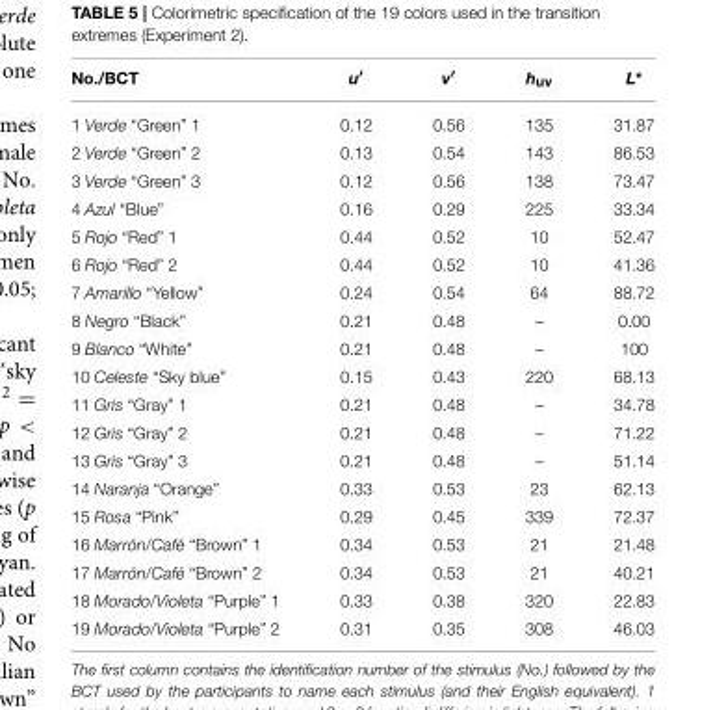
<table><thead><tr><td>No./BCT</td><td>u′</td><td>v′</td><td>h<sub>uv</sub></td><td>L*</td></tr></thead><tbody><tr><td>1 Verde “Green” 1</td><td>0.12</td><td>0.56</td><td>135</td><td>31.87</td></tr><tr><td>2 Verde “Green” 2</td><td>0.13</td><td>0.54</td><td>143</td><td>86.53</td></tr><tr><td>3 Verde “Green” 3</td><td>0.12</td><td>0.56</td><td>138</td><td>73.47</td></tr><tr><td>4 Azul “Blue”</td><td>0.16</td><td>0.29</td><td>225</td><td>33.34</td></tr><tr><td>5 Rojo “Red” 1</td><td>0.44</td><td>0.52</td><td>10</td><td>52.47</td></tr><tr><td>6 Rojo “Red” 2</td><td>0.44</td><td>0.52</td><td>10</td><td>41.36</td></tr><tr><td>7 Amarillo “Yellow”</td><td>0.24</td><td>0.54</td><td>64</td><td>88.72</td></tr><tr><td>8 Negro “Black”</td><td>0.21</td><td>0.48</td><td>–</td><td>0.00</td></tr><tr><td>9 Blanco “White”</td><td>0.21</td><td>0.48</td><td>–</td><td>100</td></tr><tr><td>10 Celeste “Sky blue”</td><td>0.15</td><td>0.43</td><td>220</td><td>68.13</td></tr><tr><td>11 Gris “Gray” 1</td><td>0.21</td><td>0.48</td><td>–</td><td>34.78</td></tr><tr><td>12 Gris “Gray” 2</td><td>0.21</td><td>0.48</td><td>–</td><td>71.22</td></tr><tr><td>13 Gris “Gray” 3</td><td>0.21</td><td>0.48</td><td>–</td><td>51.14</td></tr><tr><td>14 Naranja “Orange”</td><td>0.33</td><td>0.53</td><td>23</td><td>62.13</td></tr><tr><td>15 Rosa “Pink”</td><td>0.29</td><td>0.45</td><td>339</td><td>72.37</td></tr><tr><td>16 Marrón/Café “Brown” 1</td><td>0.34</td><td>0.53</td><td>21</td><td>21.48</td></tr><tr><td>17 Marrón/Café “Brown” 2</td><td>0.34</td><td>0.53</td><td>21</td><td>40.21</td></tr><tr><td>18 Morado/Violeta “Purple” 1</td><td>0.33</td><td>0.38</td><td>320</td><td>22.83</td></tr><tr><td>19 Morado/Violeta “Purple” 2</td><td>0.31</td><td>0.35</td><td>308</td><td>46.03</td></tr></tbody></table>